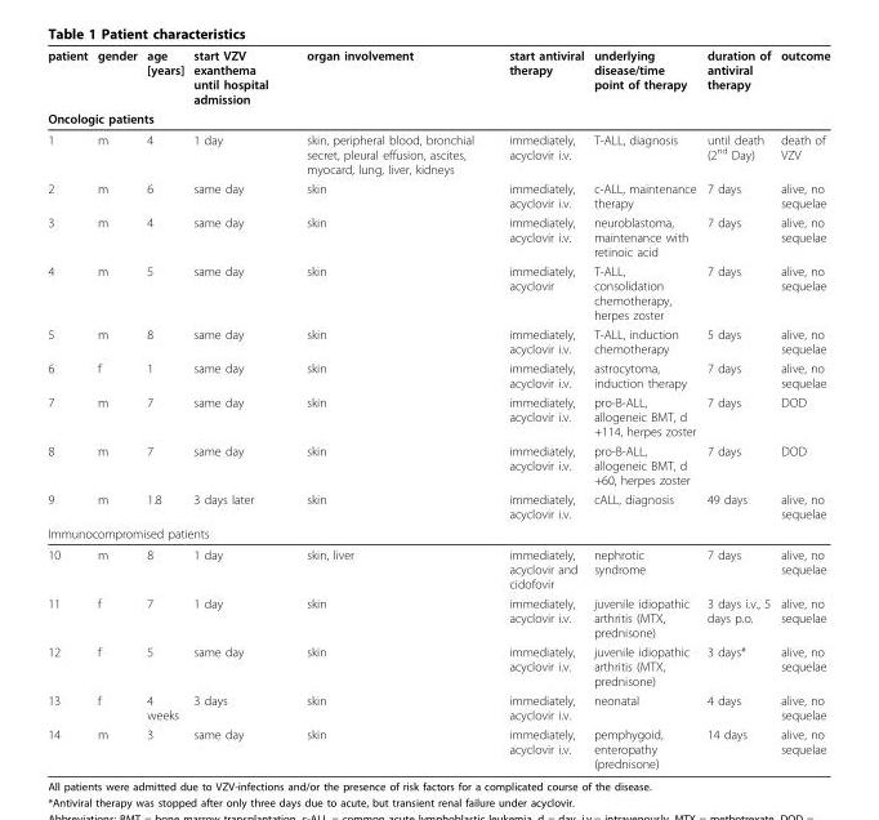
<table><thead><tr><td>patient</td><td>gender</td><td>age [years]</td><td>start VZV exanthema until hospital admission</td><td>organ involvement</td><td>start antiviral therapy</td><td>underlying disease/time point of therapy</td><td>duration of antiviral therapy</td><td rowspan="2">outcome</td></tr><tr><td colspan="8">Oncologic patients</td></tr></thead><tbody><tr><td>1</td><td>m</td><td>4</td><td>1 day</td><td>skin, peripheral blood, bronchial secret, pleural effusion, ascites, myocard, lung, liver, kidneys</td><td>immediately, acyclovir i.v.</td><td>T-ALL, diagnosis</td><td>until death (2<sup>nd</sup> Day)</td><td>death of VZV</td></tr><tr><td>2</td><td>m</td><td>6</td><td>same day</td><td>skin</td><td>immediately, acyclovir i.v.</td><td>c-ALL, maintenance therapy</td><td>7 days</td><td>alive, no sequelae</td></tr><tr><td>3</td><td>m</td><td>4</td><td>same day</td><td>skin</td><td>immediately, acyclovir i.v.</td><td>neuroblastoma, maintenance with retinoic acid</td><td>7 days</td><td>alive, no sequelae</td></tr><tr><td>4</td><td>m</td><td>5</td><td>same day</td><td>skin</td><td>immediately, acyclovir</td><td>T-ALL, consolidation chemotherapy, herpes zoster</td><td>7 days</td><td>alive, no sequelae</td></tr><tr><td>5</td><td>m</td><td>8</td><td>same day</td><td>skin</td><td>immediately, acyclovir i.v.</td><td>T-ALL, induction chemotherapy</td><td>5 days</td><td>alive, no sequelae</td></tr><tr><td>6</td><td>f</td><td>1</td><td>same day</td><td>skin</td><td>immediately, acyclovir i.v.</td><td>astrocytoma, induction therapy</td><td>7 days</td><td>alive, no sequelae</td></tr><tr><td>7</td><td>m</td><td>7</td><td>same day</td><td>skin</td><td>immediately, acyclovir i.v.</td><td>pro-B-ALL, allogeneic BMT, d +114, herpes zoster</td><td>7 days</td><td>DOD</td></tr><tr><td>8</td><td>m</td><td>7</td><td>same day</td><td>skin</td><td>immediately, acyclovir i.v.</td><td>pro-B-ALL, allogeneic BMT, d +60, herpes zoster</td><td>7 days</td><td>DOD</td></tr><tr><td>9</td><td>m</td><td>1.8</td><td>3 days later</td><td>skin</td><td>immediately, acyclovir i.v.</td><td>cALL, diagnosis</td><td>49 days</td><td>alive, no sequelae</td></tr><tr><td colspan="9">Immunocompromised patients</td></tr><tr><td>10</td><td>m</td><td>8</td><td>1 day</td><td>skin, liver</td><td>immediately, acyclovir and cidofovir</td><td>nephrotic syndrome</td><td>7 days</td><td>alive, no sequelae</td></tr><tr><td>11</td><td>f</td><td>7</td><td>1 day</td><td>skin</td><td>immediately, acyclovir i.v.</td><td>juvenile idiopathic arthritis (MTX, prednisone)</td><td>3 days i.v., 5 days p.o.</td><td>alive, no sequelae</td></tr><tr><td>12</td><td>f</td><td>5</td><td>same day</td><td>skin</td><td>immediately, acyclovir i.v.</td><td>juvenile idiopathic arthritis (MTX, prednisone)</td><td>3 days*</td><td>alive, no sequelae</td></tr><tr><td>13</td><td>f</td><td>4 weeks</td><td>3 days</td><td>skin</td><td>immediately, acyclovir i.v.</td><td>neonatal</td><td>4 days</td><td>alive, no sequelae</td></tr><tr><td>14</td><td>m</td><td>3</td><td>same day</td><td>skin</td><td>immediately, acyclovir i.v.</td><td>pemphygoid, enteropathy (prednisone)</td><td>14 days</td><td>alive, no sequelae</td></tr></tbody></table>